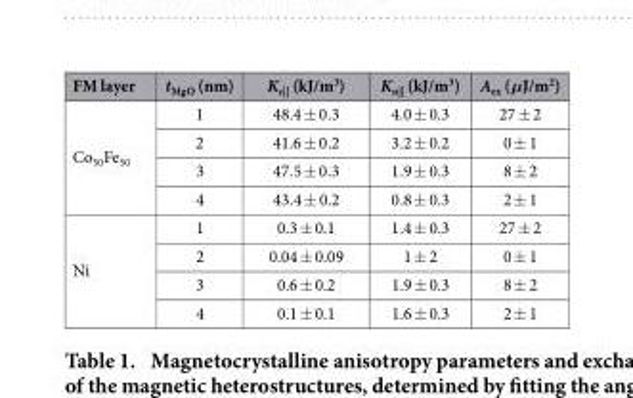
<table><thead><tr><td>FM layer</td><td>t<sub>MgO</sub> (nm)</td><td>K<sub>c||</sub> (kJ/m<sup>3</sup>)</td><td>K<sub>u||</sub> (kJ/m<sup>3</sup>)</td><td>A<sub>ex</sub> (μJ/m<sup>2</sup>)</td></tr></thead><tbody><tr><td rowspan="4">Co<sub>50</sub>Fe<sub>50</sub></td><td>1</td><td>48.4 ± 0.3</td><td>4.0 ± 0.3</td><td>27 ± 2</td></tr><tr><td>2</td><td>41.6 ± 0.2</td><td>3.2 ± 0.2</td><td>0 ± 1</td></tr><tr><td>3</td><td>47.5 ± 0.3</td><td>1.9 ± 0.3</td><td>8 ± 2</td></tr><tr><td>4</td><td>43.4 ± 0.2</td><td>0.8 ± 0.3</td><td>2 ± 1</td></tr><tr><td rowspan="4">Ni</td><td>1</td><td>0.3 ± 0.1</td><td>1.4 ± 0.3</td><td>27 ± 2</td></tr><tr><td>2</td><td>0.04 ± 0.09</td><td>1 ± 2</td><td>0 ± 1</td></tr><tr><td>3</td><td>0.6 ± 0.2</td><td>1.9 ± 0.3</td><td>8 ± 2</td></tr><tr><td>4</td><td>0.1 ± 0.1</td><td>1.6 ± 0.3</td><td>2 ± 1</td></tr></tbody></table>